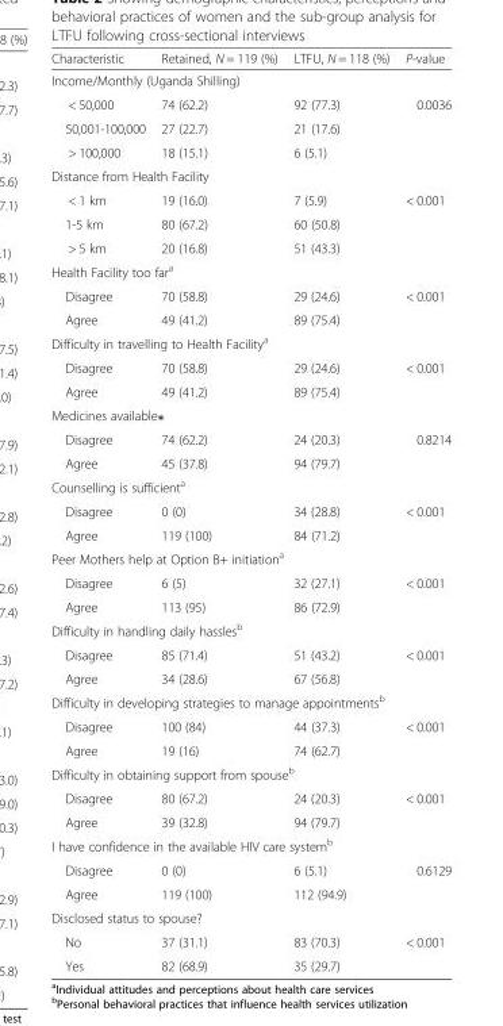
<table><thead><tr><td>Characteristic</td><td>Retained, N = 119 (%)</td><td>LTFU, N = 118 (%)</td><td>P-value</td></tr></thead><tbody><tr><td colspan="4">Income/Monthly (Uganda Shilling)</td></tr><tr><td>&lt; 50,000</td><td>74 (62.2)</td><td>92 (77.3)</td><td>0.0036</td></tr><tr><td>50,001-100,000</td><td>27 (22.7)</td><td>21 (17.6)</td><td></td></tr><tr><td>&gt; 100,000</td><td>18 (15.1)</td><td>6 (5.1)</td><td></td></tr><tr><td colspan="4">Distance from Health Facility</td></tr><tr><td>&lt; 1 km</td><td>19 (16.0)</td><td>7 (5.9)</td><td>&lt; 0.001</td></tr><tr><td>1-5 km</td><td>80 (67.2)</td><td>60 (50.8)</td><td></td></tr><tr><td>&gt; 5 km</td><td>20 (16.8)</td><td>51 (43.3)</td><td></td></tr><tr><td colspan="4">Health Facility too far<sup>a</sup></td></tr><tr><td>Disagree</td><td>70 (58.8)</td><td>29 (24.6)</td><td>&lt; 0.001</td></tr><tr><td>Agree</td><td>49 (41.2)</td><td>89 (75.4)</td><td></td></tr><tr><td colspan="4">Difficulty in travelling to Health Facility<sup>a</sup></td></tr><tr><td>Disagree</td><td>70 (58.8)</td><td>29 (24.6)</td><td>&lt; 0.001</td></tr><tr><td>Agree</td><td>49 (41.2)</td><td>89 (75.4)</td><td></td></tr><tr><td colspan="4">Medicines available⁎</td></tr><tr><td>Disagree</td><td>74 (62.2)</td><td>24 (20.3)</td><td>0.8214</td></tr><tr><td>Agree</td><td>45 (37.8)</td><td>94 (79.7)</td><td></td></tr><tr><td colspan="4">Counselling is sufficient<sup>a</sup></td></tr><tr><td>Disagree</td><td>0 (0)</td><td>34 (28.8)</td><td>&lt; 0.001</td></tr><tr><td>Agree</td><td>119 (100)</td><td>84 (71.2)</td><td></td></tr><tr><td colspan="4">Peer Mothers help at Option B+ initiation<sup>a</sup></td></tr><tr><td>Disagree</td><td>6 (5)</td><td>32 (27.1)</td><td>&lt; 0.001</td></tr><tr><td>Agree</td><td>113 (95)</td><td>86 (72.9)</td><td></td></tr><tr><td colspan="4">Difficulty in handling daily hassles<sup>b</sup></td></tr><tr><td>Disagree</td><td>85 (71.4)</td><td>51 (43.2)</td><td>&lt; 0.001</td></tr><tr><td>Agree</td><td>34 (28.6)</td><td>67 (56.8)</td><td></td></tr><tr><td colspan="4">Difficulty in developing strategies to manage appointments<sup>b</sup></td></tr><tr><td>Disagree</td><td>100 (84)</td><td>44 (37.3)</td><td>&lt; 0.001</td></tr><tr><td>Agree</td><td>19 (16)</td><td>74 (62.7)</td><td></td></tr><tr><td colspan="4">Difficulty in obtaining support from spouse<sup>b</sup></td></tr><tr><td>Disagree</td><td>80 (67.2)</td><td>24 (20.3)</td><td>&lt; 0.001</td></tr><tr><td>Agree</td><td>39 (32.8)</td><td>94 (79.7)</td><td></td></tr><tr><td colspan="4">I have confidence in the available HIV care system<sup>b</sup></td></tr><tr><td>Disagree</td><td>0 (0)</td><td>6 (5.1)</td><td>0.6129</td></tr><tr><td>Agree</td><td>119 (100)</td><td>112 (94.9)</td><td></td></tr><tr><td colspan="4">Disclosed status to spouse?</td></tr><tr><td>No</td><td>37 (31.1)</td><td>83 (70.3)</td><td>&lt; 0.001</td></tr><tr><td>Yes</td><td>82 (68.9)</td><td>35 (29.7)</td><td></td></tr></tbody></table>